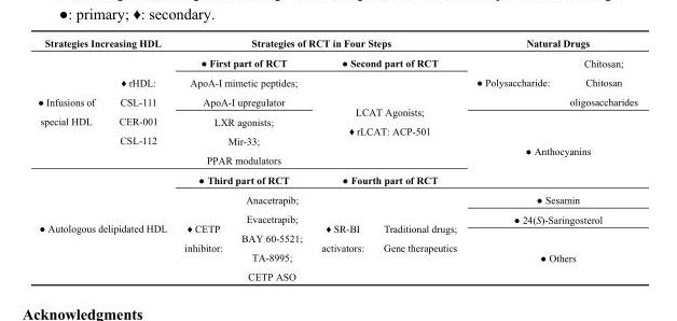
<table><thead><tr><td colspan="2">Strategies Increasing HDL</td><td colspan="4">Strategies of RCT in Four Steps</td><td colspan="2">Natural Drugs</td></tr></thead><tbody><tr><td rowspan="3">● Infusions of special HDL</td><td rowspan="3">♦ rHDL: CSL-111 CER-001 CSL-112</td><td colspan="2">● First part of RCT</td><td colspan="2">● Second part of RCT</td><td rowspan="2">● Polysaccharide:</td><td rowspan="2">Chitosan; Chitosan oligosaccharides</td></tr><tr><td colspan="2">ApoA-I mimetic peptides; ApoA-I upregulator</td><td rowspan="2" colspan="2">LCAT Agonists; ♦ rLCAT: ACP-501</td></tr><tr><td colspan="2">LXR agonists; Mir-33; PPAR modulators</td><td rowspan="2" colspan="2">● Anthocyanins</td></tr><tr><td rowspan="4" colspan="2">● Autologous delipidated HDL</td><td colspan="2">● Third part of RCT</td><td colspan="2">● Fourth part of RCT</td></tr><tr><td rowspan="3">♦ CETP inhibitor:</td><td rowspan="3">Anacetrapib; Evacetrapib; BAY 60-5521; TA-8995; CETP ASO</td><td rowspan="3">♦ SR-BI activators:</td><td rowspan="3">Traditional drugs; Gene therapeutics</td><td colspan="2">● Sesamin</td></tr><tr><td colspan="2">● 24(S)-Saringosterol</td></tr><tr><td colspan="2">● Others</td></tr></tbody></table>